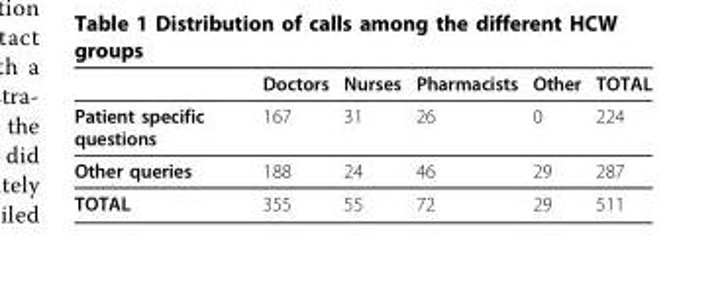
<table><thead><tr><td></td><td>Doctors</td><td>Nurses</td><td>Pharmacists</td><td>Other</td><td>TOTAL</td></tr></thead><tbody><tr><td>Patient specific questions</td><td>167</td><td>31</td><td>26</td><td>0</td><td>224</td></tr><tr><td>Other queries</td><td>188</td><td>24</td><td>46</td><td>29</td><td>287</td></tr><tr><td>TOTAL</td><td>355</td><td>55</td><td>72</td><td>29</td><td>511</td></tr></tbody></table>